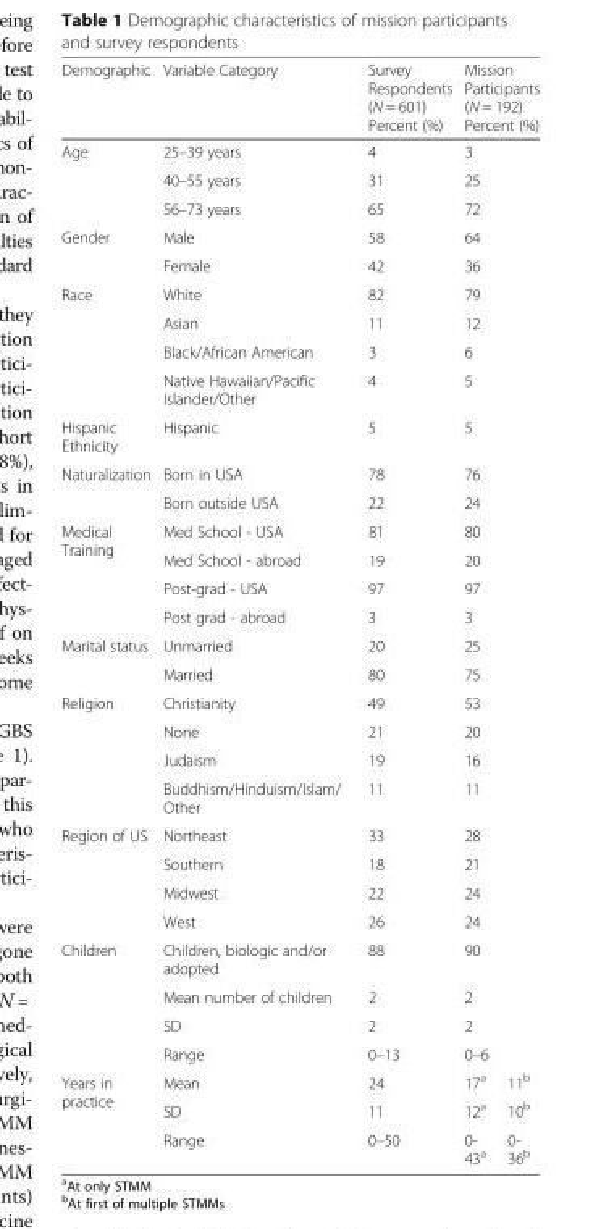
<table><thead><tr><td>Demographic</td><td>Variable Category</td><td>Survey Respondents (N = 601) Percent (%)</td><td colspan="2">Mission Participants (N = 192) Percent (%)</td></tr></thead><tbody><tr><td rowspan="3">Age</td><td>25–39 years</td><td>4</td><td colspan="2">3</td></tr><tr><td>40–55 years</td><td>31</td><td colspan="2">25</td></tr><tr><td>56–73 years</td><td>65</td><td colspan="2">72</td></tr><tr><td rowspan="2">Gender</td><td>Male</td><td>58</td><td colspan="2">64</td></tr><tr><td>Female</td><td>42</td><td colspan="2">36</td></tr><tr><td rowspan="4">Race</td><td>White</td><td>82</td><td colspan="2">79</td></tr><tr><td>Asian</td><td>11</td><td colspan="2">12</td></tr><tr><td>Black/African American</td><td>3</td><td colspan="2">6</td></tr><tr><td>Native Hawaiian/Pacific Islander/Other</td><td>4</td><td colspan="2">5</td></tr><tr><td>Hispanic Ethnicity</td><td>Hispanic</td><td>5</td><td colspan="2">5</td></tr><tr><td rowspan="2">Naturalization</td><td>Born in USA</td><td>78</td><td colspan="2">76</td></tr><tr><td>Born outside USA</td><td>22</td><td colspan="2">24</td></tr><tr><td rowspan="4">Medical Training</td><td>Med School - USA</td><td>81</td><td colspan="2">80</td></tr><tr><td>Med School - abroad</td><td>19</td><td colspan="2">20</td></tr><tr><td>Post-grad - USA</td><td>97</td><td colspan="2">97</td></tr><tr><td>Post grad - abroad</td><td>3</td><td colspan="2">3</td></tr><tr><td rowspan="2">Marital status</td><td>Unmarried</td><td>20</td><td colspan="2">25</td></tr><tr><td>Married</td><td>80</td><td colspan="2">75</td></tr><tr><td rowspan="4">Religion</td><td>Christianity</td><td>49</td><td colspan="2">53</td></tr><tr><td>None</td><td>21</td><td colspan="2">20</td></tr><tr><td>Judaism</td><td>19</td><td colspan="2">16</td></tr><tr><td>Buddhism/Hinduism/Islam/ Other</td><td>11</td><td colspan="2">11</td></tr><tr><td rowspan="4">Region of US</td><td>Northeast</td><td>33</td><td colspan="2">28</td></tr><tr><td>Southern</td><td>18</td><td colspan="2">21</td></tr><tr><td>Midwest</td><td>22</td><td colspan="2">24</td></tr><tr><td>West</td><td>26</td><td colspan="2">24</td></tr><tr><td rowspan="4">Children</td><td>Children, biologic and/or adopted</td><td>88</td><td colspan="2">90</td></tr><tr><td>Mean number of children</td><td>2</td><td colspan="2">2</td></tr><tr><td>SD</td><td>2</td><td colspan="2">2</td></tr><tr><td>Range</td><td>0–13</td><td colspan="2">0–6</td></tr><tr><td rowspan="3">Years in practice</td><td>Mean</td><td>24</td><td>17<sup>a</sup></td><td>11<sup>b</sup></td></tr><tr><td>SD</td><td>11</td><td>12<sup>a</sup></td><td>10<sup>b</sup></td></tr><tr><td>Range</td><td>0–50</td><td>0- 43<sup>a</sup></td><td>0- 36<sup>b</sup></td></tr></tbody></table>